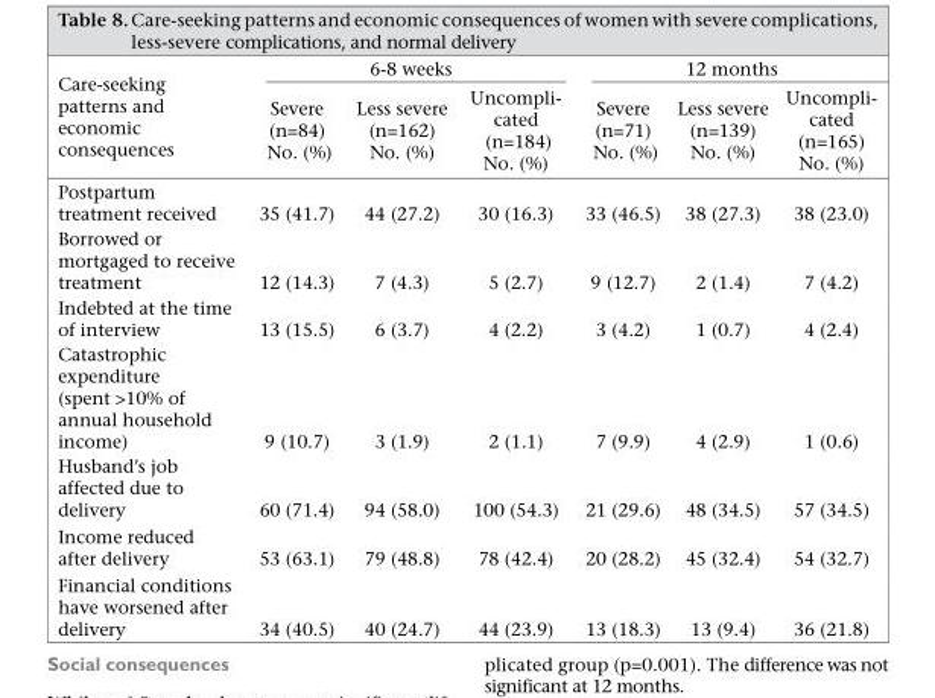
<table><thead><tr><td rowspan="2">Care-seeking patterns and economic consequences</td><td colspan="3">6-8 weeks</td><td colspan="3">12 months</td></tr><tr><td>Severe (n=84) No. (%)</td><td>Less severe (n=162) No. (%)</td><td>Uncompli- cated (n=184) No. (%)</td><td>Severe (n=71) No. (%)</td><td>Less severe (n=139) No. (%)</td><td>Uncompli- cated (n=165) No. (%)</td></tr></thead><tbody><tr><td>Postpartum treatment received</td><td>35 (41.7)</td><td>44 (27.2)</td><td>30 (16.3)</td><td>33 (46.5)</td><td>38 (27.3)</td><td>38 (23.0)</td></tr><tr><td>Borrowed or mortgaged to receive treatment</td><td>12 (14.3)</td><td>7 (4.3)</td><td>5 (2.7)</td><td>9 (12.7)</td><td>2 (1.4)</td><td>7 (4.2)</td></tr><tr><td>Indebted at the time of interview</td><td>13 (15.5)</td><td>6 (3.7)</td><td>4 (2.2)</td><td>3 (4.2)</td><td>1 (0.7)</td><td>4 (2.4)</td></tr><tr><td>Catastrophic expenditure (spent &gt;10% of annual household income)</td><td>9 (10.7)</td><td>3 (1.9)</td><td>2 (1.1)</td><td>7 (9.9)</td><td>4 (2.9)</td><td>1 (0.6)</td></tr><tr><td>Husband’s job affected due to delivery</td><td>60 (71.4)</td><td>94 (58.0)</td><td>100 (54.3)</td><td>21 (29.6)</td><td>48 (34.5)</td><td>57 (34.5)</td></tr><tr><td>Income reduced after delivery</td><td>53 (63.1)</td><td>79 (48.8)</td><td>78 (42.4)</td><td>20 (28.2)</td><td>45 (32.4)</td><td>54 (32.7)</td></tr><tr><td>Financial conditions have worsened after delivery</td><td>34 (40.5)</td><td>40 (24.7)</td><td>44 (23.9)</td><td>13 (18.3)</td><td>13 (9.4)</td><td>36 (21.8)</td></tr></tbody></table>